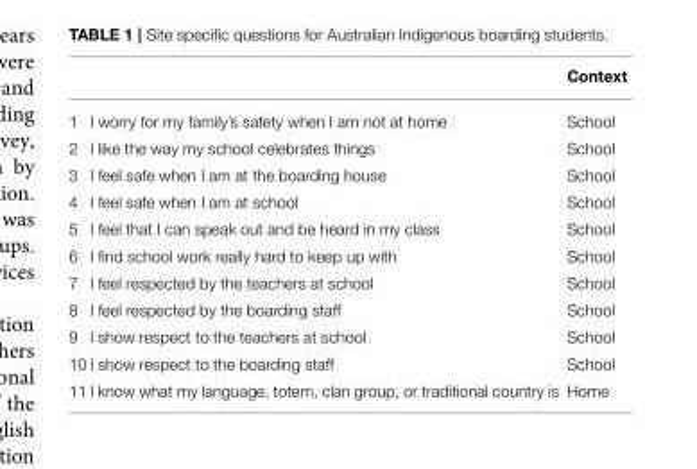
<table><thead><tr><td></td><td></td><td>Context</td></tr></thead><tbody><tr><td>1</td><td>I worry for my family’s safety when I am not at home</td><td>School</td></tr><tr><td>2</td><td>I like the way my school celebrates things</td><td>School</td></tr><tr><td>3</td><td>I feel safe when I am at the boarding house</td><td>School</td></tr><tr><td>4</td><td>I feel safe when I am at school</td><td>School</td></tr><tr><td>5</td><td>I feel that I can speak out and be heard in my class</td><td>School</td></tr><tr><td>6</td><td>I find school work really hard to keep up with</td><td>School</td></tr><tr><td>7</td><td>I feel respected by the teachers at school</td><td>School</td></tr><tr><td>8</td><td>I feel respected by the boarding staff</td><td>School</td></tr><tr><td>9</td><td>I show respect to the teachers at school</td><td>School</td></tr><tr><td>10</td><td>I show respect to the boarding staff</td><td>School</td></tr><tr><td>11</td><td>I know what my language, totem, clan group, or traditional country is</td><td>Home</td></tr></tbody></table>